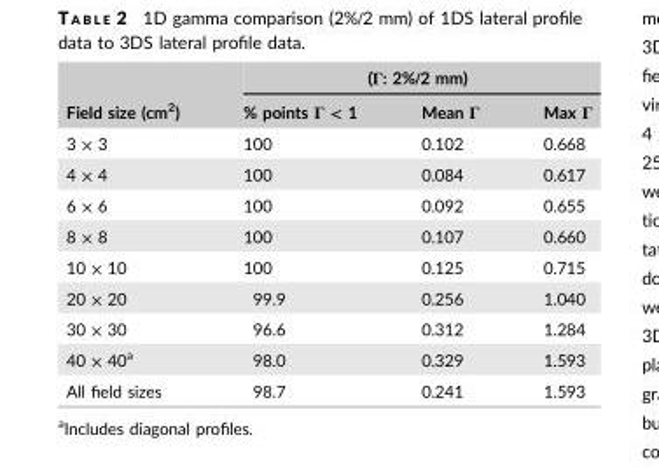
<table><thead><tr><td rowspan="2">Field size (cm<sup>2</sup>)</td><td colspan="3">(Γ: 2%/2 mm)</td></tr><tr><td>% points Γ &lt; 1</td><td>Mean Γ</td><td>Max Γ</td></tr></thead><tbody><tr><td>3 × 3</td><td>100</td><td>0.102</td><td>0.668</td></tr><tr><td>4 × 4</td><td>100</td><td>0.084</td><td>0.617</td></tr><tr><td>6 × 6</td><td>100</td><td>0.092</td><td>0.655</td></tr><tr><td>8 × 8</td><td>100</td><td>0.107</td><td>0.660</td></tr><tr><td>10 × 10</td><td>100</td><td>0.125</td><td>0.715</td></tr><tr><td>20 × 20</td><td>99.9</td><td>0.256</td><td>1.040</td></tr><tr><td>30 × 30</td><td>96.6</td><td>0.312</td><td>1.284</td></tr><tr><td>40 × 40<sup>a</sup></td><td>98.0</td><td>0.329</td><td>1.593</td></tr><tr><td>All field sizes</td><td>98.7</td><td>0.241</td><td>1.593</td></tr></tbody></table>